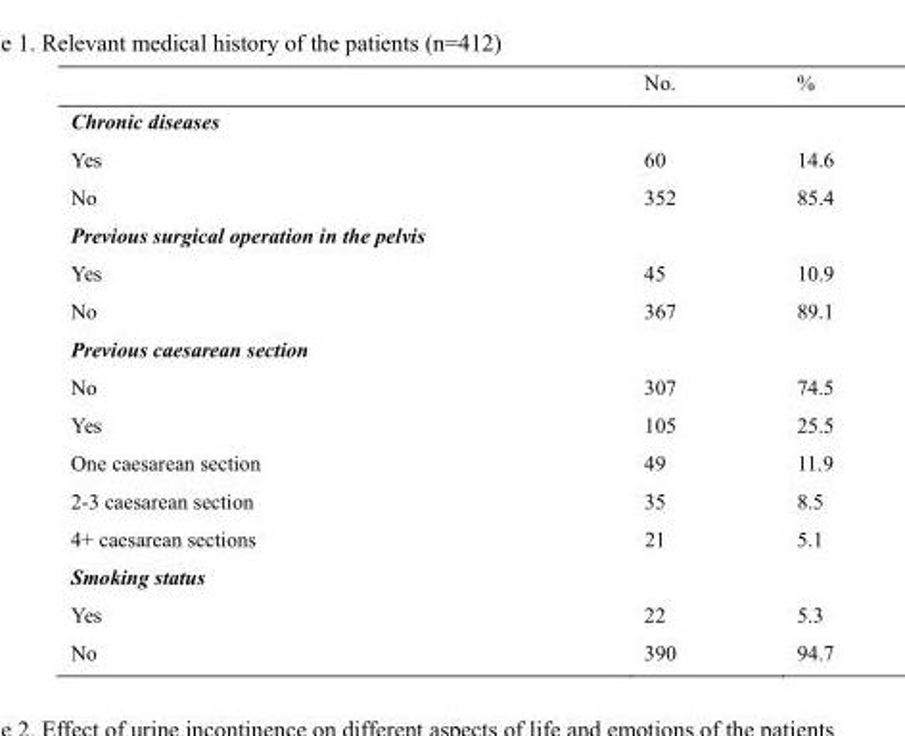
<table><thead><tr><td></td><td>No.</td><td>%</td></tr></thead><tbody><tr><td colspan="3">Chronic diseases</td></tr><tr><td>Yes</td><td>60</td><td>14.6</td></tr><tr><td>No</td><td>352</td><td>85.4</td></tr><tr><td colspan="3">Previous surgical operation in the pelvis</td></tr><tr><td>Yes</td><td>45</td><td>10.9</td></tr><tr><td>No</td><td>367</td><td>89.1</td></tr><tr><td colspan="3">Previous caesarean section</td></tr><tr><td>No</td><td>307</td><td>74.5</td></tr><tr><td>Yes</td><td>105</td><td>25.5</td></tr><tr><td>One caesarean section</td><td>49</td><td>11.9</td></tr><tr><td>2-3 caesarean section</td><td>35</td><td>8.5</td></tr><tr><td>4+ caesarean sections</td><td>21</td><td>5.1</td></tr><tr><td colspan="3">Smoking status</td></tr><tr><td>Yes</td><td>22</td><td>5.3</td></tr><tr><td>No</td><td>390</td><td>94.7</td></tr></tbody></table>